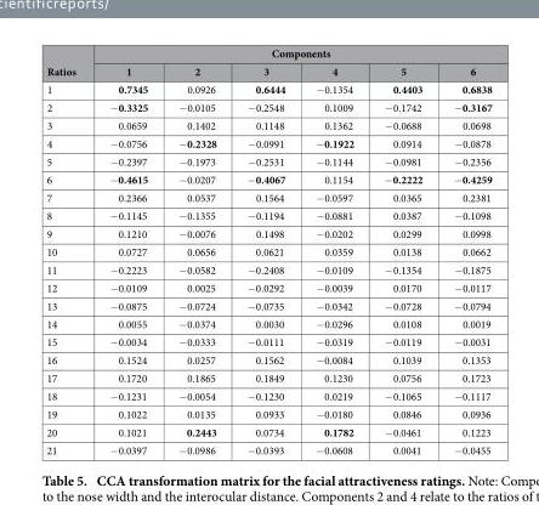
<table><thead><tr><td rowspan="2">Ratios</td><td colspan="6">Components</td></tr><tr><td>1</td><td>2</td><td>3</td><td>4</td><td>5</td><td>6</td></tr></thead><tbody><tr><td>1</td><td>0.7345</td><td>0.0926</td><td>0.6444</td><td>− 0.1354</td><td>0.4403</td><td>0.6838</td></tr><tr><td>2</td><td>− 0.3325</td><td>− 0.0105</td><td>− 0.2548</td><td>0.1009</td><td>− 0.1742</td><td>− 0.3167</td></tr><tr><td>3</td><td>0.0659</td><td>0.1402</td><td>0.1148</td><td>0.1362</td><td>− 0.0688</td><td>0.0698</td></tr><tr><td>4</td><td>− 0.0756</td><td>− 0.2328</td><td>− 0.0991</td><td>− 0.1922</td><td>0.0914</td><td>− 0.0878</td></tr><tr><td>5</td><td>− 0.2397</td><td>− 0.1973</td><td>− 0.2531</td><td>− 0.1144</td><td>− 0.0981</td><td>− 0.2356</td></tr><tr><td>6</td><td>− 0.4615</td><td>− 0.0207</td><td>− 0.4067</td><td>0.1154</td><td>− 0.2222</td><td>− 0.4259</td></tr><tr><td>7</td><td>0.2366</td><td>0.0537</td><td>0.1564</td><td>− 0.0597</td><td>0.0365</td><td>0.2381</td></tr><tr><td>8</td><td>− 0.1145</td><td>− 0.1355</td><td>− 0.1194</td><td>− 0.0881</td><td>0.0387</td><td>− 0.1098</td></tr><tr><td>9</td><td>0.1210</td><td>− 0.0076</td><td>0.1498</td><td>− 0.0202</td><td>0.0299</td><td>0.0998</td></tr><tr><td>10</td><td>0.0727</td><td>0.0656</td><td>0.0621</td><td>0.0359</td><td>0.0138</td><td>0.0662</td></tr><tr><td>11</td><td>− 0.2223</td><td>− 0.0582</td><td>− 0.2408</td><td>− 0.0109</td><td>− 0.1354</td><td>− 0.1875</td></tr><tr><td>12</td><td>− 0.0109</td><td>0.0025</td><td>− 0.0292</td><td>− 0.0039</td><td>0.0170</td><td>− 0.0117</td></tr><tr><td>13</td><td>− 0.0875</td><td>− 0.0724</td><td>− 0.0735</td><td>− 0.0342</td><td>− 0.0728</td><td>− 0.0794</td></tr><tr><td>14</td><td>0.0055</td><td>− 0.0374</td><td>0.0030</td><td>− 0.0296</td><td>0.0108</td><td>0.0019</td></tr><tr><td>15</td><td>− 0.0034</td><td>− 0.0333</td><td>− 0.0111</td><td>− 0.0319</td><td>− 0.0119</td><td>− 0.0031</td></tr><tr><td>16</td><td>0.1524</td><td>0.0257</td><td>0.1562</td><td>− 0.0084</td><td>0.1039</td><td>0.1353</td></tr><tr><td>17</td><td>0.1720</td><td>0.1865</td><td>0.1849</td><td>0.1230</td><td>0.0756</td><td>0.1723</td></tr><tr><td>18</td><td>− 0.1231</td><td>− 0.0054</td><td>− 0.1230</td><td>0.0219</td><td>− 0.1065</td><td>− 0.1117</td></tr><tr><td>19</td><td>0.1022</td><td>0.0135</td><td>0.0933</td><td>− 0.0180</td><td>0.0846</td><td>0.0936</td></tr><tr><td>20</td><td>0.1021</td><td>0.2443</td><td>0.0734</td><td>0.1782</td><td>− 0.0461</td><td>0.1223</td></tr><tr><td>21</td><td>− 0.0397</td><td>− 0.0986</td><td>− 0.0393</td><td>− 0.0608</td><td>0.0041</td><td>− 0.0455</td></tr></tbody></table>